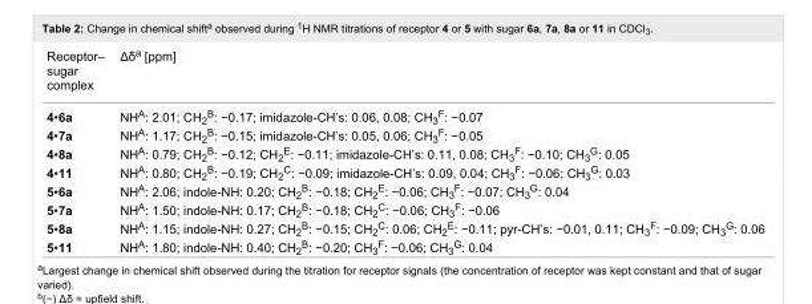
<table><tbody><tr><td>Receptor– sugar complex</td><td>Δδ<sup>a</sup> [ppm]</td></tr><tr><td>4•6a</td><td>NH<sup>A</sup>: 2.01; CH<sub>2</sub><sup>B</sup>: −0.17; imidazole-CH’s: 0.06, 0.08; CH<sub>3</sub><sup>F</sup>: −0.07</td></tr><tr><td>4•7a</td><td>NH<sup>A</sup>: 1.17; CH<sub>2</sub><sup>B</sup>: −0.15; imidazole-CH’s: 0.05, 0.06; CH<sub>3</sub><sup>F</sup>: −0.05</td></tr><tr><td>4•8a</td><td>NH<sup>A</sup>: 0.79; CH<sub>2</sub><sup>B</sup>: −0.12; CH<sub>2</sub><sup>E</sup>: −0.11; imidazole-CH’s: 0.11, 0.08; CH<sub>3</sub><sup>F</sup>: −0.10; CH<sub>3</sub><sup>G</sup>: 0.05</td></tr><tr><td>4•11</td><td>NH<sup>A</sup>: 0.80; CH<sub>2</sub><sup>B</sup>: −0.19; CH<sub>2</sub><sup>C</sup>: −0.09; imidazole-CH’s: 0.09, 0.04; CH<sub>3</sub><sup>F</sup>: −0.06; CH<sub>3</sub><sup>G</sup>: 0.03</td></tr><tr><td>5•6a</td><td>NH<sup>A</sup>: 2.06; indole-NH: 0.20; CH<sub>2</sub><sup>B</sup>: −0.18; CH<sub>2</sub><sup>E</sup>: −0.06; CH<sub>3</sub><sup>F</sup>: −0.07; CH<sub>3</sub><sup>G</sup>: 0.04</td></tr><tr><td>5•7a</td><td>NH<sup>A</sup>: 1.50; indole-NH: 0.17; CH<sub>2</sub><sup>B</sup>: −0.18; CH<sub>2</sub><sup>C</sup>: −0.06; CH<sub>3</sub><sup>F</sup>: −0.06</td></tr><tr><td>5•8a</td><td>NH<sup>A</sup>: 1.15; indole-NH: 0.27; CH<sub>2</sub><sup>B</sup>: −0.15; CH<sub>2</sub><sup>C</sup>: 0.06; CH<sub>2</sub><sup>E</sup>: −0.11; pyr-CH’s: −0.01, 0.11; CH<sub>3</sub><sup>F</sup>: −0.09; CH<sub>3</sub><sup>G</sup>: 0.06</td></tr><tr><td>5•11</td><td>NH<sup>A</sup>: 1.80; indole-NH: 0.40; CH<sub>2</sub><sup>B</sup>: −0.20; CH<sub>3</sub><sup>F</sup>: −0.06; CH<sub>3</sub><sup>G</sup>: 0.04</td></tr></tbody></table>